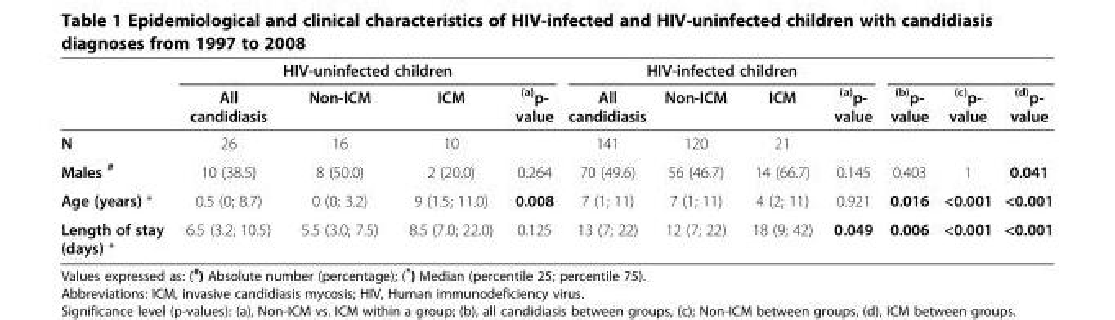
<table><thead><tr><td rowspan="2"></td><td colspan="4">HIV-uninfected children</td><td colspan="4">HIV-infected children</td><td rowspan="2"><sup>(b)</sup>p- value</td><td rowspan="2"><sup>(c)</sup>p- value</td><td rowspan="2"><sup>(d)</sup>p- value</td></tr><tr><td>All candidiasis</td><td>Non-ICM</td><td>ICM</td><td><sup>(a)</sup>p- value</td><td>All candidiasis</td><td>Non-ICM</td><td>ICM</td><td><sup>(a)</sup>p- value</td></tr></thead><tbody><tr><td>N</td><td>26</td><td>16</td><td>10</td><td></td><td>141</td><td>120</td><td>21</td><td></td><td></td><td></td><td></td></tr><tr><td>Males <sup>#</sup></td><td>10 (38.5)</td><td>8 (50.0)</td><td>2 (20.0)</td><td>0.264</td><td>70 (49.6)</td><td>56 (46.7)</td><td>14 (66.7)</td><td>0.145</td><td>0.403</td><td>1</td><td>0.041</td></tr><tr><td>Age (years) *</td><td>0.5 (0; 8.7)</td><td>0 (0; 3.2)</td><td>9 (1.5; 11.0)</td><td>0.008</td><td>7 (1; 11)</td><td>7 (1; 11)</td><td>4 (2; 11)</td><td>0.921</td><td>0.016</td><td>&lt;0.001</td><td>&lt;0.001</td></tr><tr><td>Length of stay (days) *</td><td>6.5 (3.2; 10.5)</td><td>5.5 (3.0; 7.5)</td><td>8.5 (7.0; 22.0)</td><td>0.125</td><td>13 (7; 22)</td><td>12 (7; 22)</td><td>18 (9; 42)</td><td>0.049</td><td>0.006</td><td>&lt;0.001</td><td>&lt;0.001</td></tr></tbody></table>